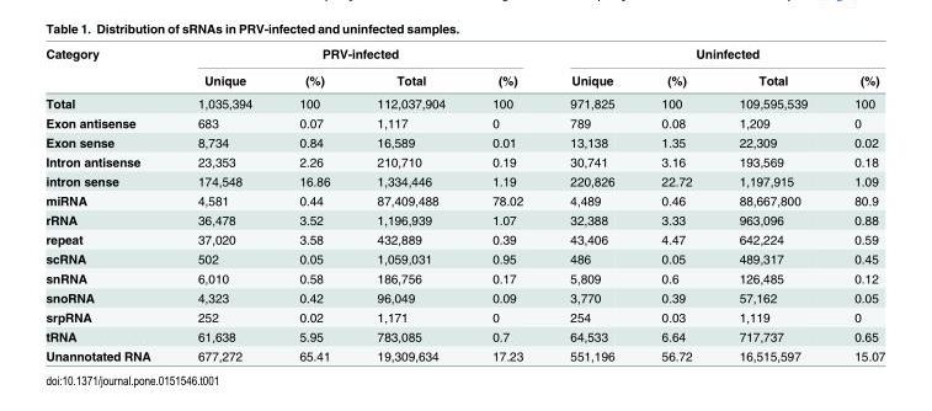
<table><thead><tr><td rowspan="2">Category</td><td colspan="4">PRV-infected</td><td colspan="4">Uninfected</td></tr><tr><td>Unique</td><td>(%)</td><td>Total</td><td>(%)</td><td>Unique</td><td>(%)</td><td>Total</td><td>(%)</td></tr></thead><tbody><tr><td>Total</td><td>1,035,394</td><td>100</td><td>112,037,904</td><td>100</td><td>971,825</td><td>100</td><td>109,595,539</td><td>100</td></tr><tr><td>Exon antisense</td><td>683</td><td>0.07</td><td>1,117</td><td>0</td><td>789</td><td>0.08</td><td>1,209</td><td>0</td></tr><tr><td>Exon sense</td><td>8,734</td><td>0.84</td><td>16,589</td><td>0.01</td><td>13,138</td><td>1.35</td><td>22,309</td><td>0.02</td></tr><tr><td>Intron antisense</td><td>23,353</td><td>2.26</td><td>210,710</td><td>0.19</td><td>30,741</td><td>3.16</td><td>193,569</td><td>0.18</td></tr><tr><td>intron sense</td><td>174,548</td><td>16.86</td><td>1,334,446</td><td>1.19</td><td>220,826</td><td>22.72</td><td>1,197,915</td><td>1.09</td></tr><tr><td>miRNA</td><td>4,581</td><td>0.44</td><td>87,409,488</td><td>78.02</td><td>4,489</td><td>0.46</td><td>88,667,800</td><td>80.9</td></tr><tr><td>rRNA</td><td>36,478</td><td>3.52</td><td>1,196,939</td><td>1.07</td><td>32,388</td><td>3.33</td><td>963,096</td><td>0.88</td></tr><tr><td>repeat</td><td>37,020</td><td>3.58</td><td>432,889</td><td>0.39</td><td>43,406</td><td>4.47</td><td>642,224</td><td>0.59</td></tr><tr><td>scRNA</td><td>502</td><td>0.05</td><td>1,059,031</td><td>0.95</td><td>486</td><td>0.05</td><td>489,317</td><td>0.45</td></tr><tr><td>snRNA</td><td>6,010</td><td>0.58</td><td>186,756</td><td>0.17</td><td>5,809</td><td>0.6</td><td>126,485</td><td>0.12</td></tr><tr><td>snoRNA</td><td>4,323</td><td>0.42</td><td>96,049</td><td>0.09</td><td>3,770</td><td>0.39</td><td>57,162</td><td>0.05</td></tr><tr><td>srpRNA</td><td>252</td><td>0.02</td><td>1,171</td><td>0</td><td>254</td><td>0.03</td><td>1,119</td><td>0</td></tr><tr><td>tRNA</td><td>61,638</td><td>5.95</td><td>783,085</td><td>0.7</td><td>64,533</td><td>6.64</td><td>717,737</td><td>0.65</td></tr><tr><td>Unannotated RNA</td><td>677,272</td><td>65.41</td><td>19,309,634</td><td>17.23</td><td>551,196</td><td>56.72</td><td>16,515,597</td><td>15.07</td></tr></tbody></table>